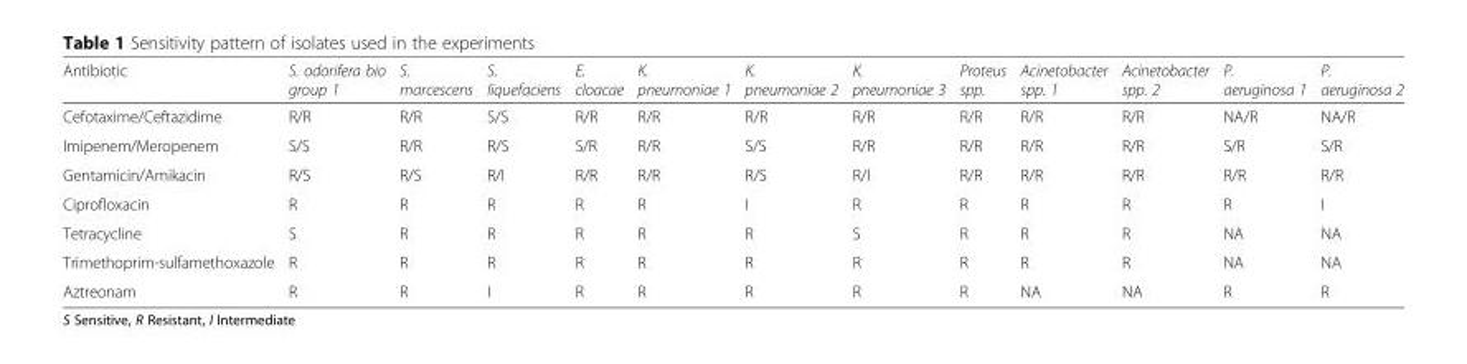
<table><thead><tr><td>Antibiotic</td><td>S. odorifera bio group 1</td><td>S. marcescens</td><td>S. liquefaciens</td><td>E. cloacae</td><td>K. pneumoniae 1</td><td>K. pneumoniae 2</td><td>K. pneumoniae 3</td><td>Proteus spp.</td><td>Acinetobacter spp. 1</td><td>Acinetobacter spp. 2</td><td>P. aeruginosa 1</td><td>P. aeruginosa 2</td></tr></thead><tbody><tr><td>Cefotaxime/Ceftazidime</td><td>R/R</td><td>R/R</td><td>S/S</td><td>R/R</td><td>R/R</td><td>R/R</td><td>R/R</td><td>R/R</td><td>R/R</td><td>R/R</td><td>NA/R</td><td>NA/R</td></tr><tr><td>Imipenem/Meropenem</td><td>S/S</td><td>R/R</td><td>R/S</td><td>S/R</td><td>R/R</td><td>S/S</td><td>R/R</td><td>R/R</td><td>R/R</td><td>R/R</td><td>S/R</td><td>S/R</td></tr><tr><td>Gentamicin/Amikacin</td><td>R/S</td><td>R/S</td><td>R/I</td><td>R/R</td><td>R/R</td><td>R/S</td><td>R/I</td><td>R/R</td><td>R/R</td><td>R/R</td><td>R/R</td><td>R/R</td></tr><tr><td>Ciprofloxacin</td><td>R</td><td>R</td><td>R</td><td>R</td><td>R</td><td>I</td><td>R</td><td>R</td><td>R</td><td>R</td><td>R</td><td>I</td></tr><tr><td>Tetracycline</td><td>S</td><td>R</td><td>R</td><td>R</td><td>R</td><td>R</td><td>S</td><td>R</td><td>R</td><td>R</td><td>NA</td><td>NA</td></tr><tr><td>Trimethoprim-sulfamethoxazole</td><td>R</td><td>R</td><td>R</td><td>R</td><td>R</td><td>R</td><td>R</td><td>R</td><td>R</td><td>R</td><td>NA</td><td>NA</td></tr><tr><td>Aztreonam</td><td>R</td><td>R</td><td>I</td><td>R</td><td>R</td><td>R</td><td>R</td><td>R</td><td>NA</td><td>NA</td><td>R</td><td>R</td></tr></tbody></table>